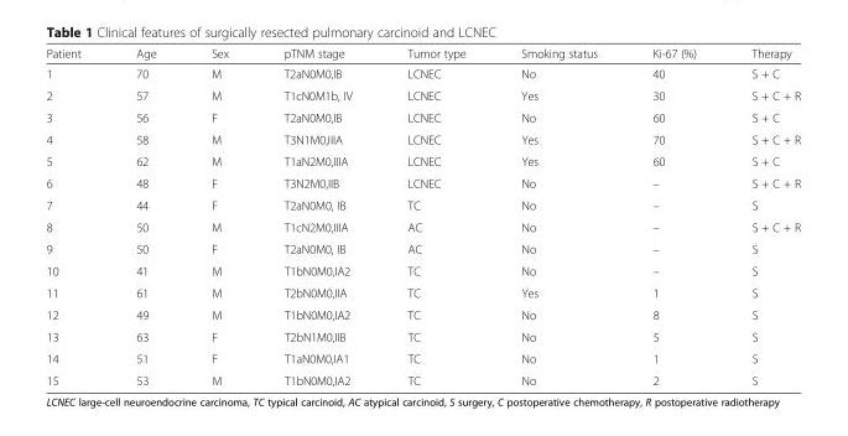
<table><thead><tr><td>Patient</td><td>Age</td><td>Sex</td><td>pTNM stage</td><td>Tumor type</td><td>Smoking status</td><td>Ki-67 (%)</td><td>Therapy</td></tr></thead><tbody><tr><td>1</td><td>70</td><td>M</td><td>T2aN0M0,IB</td><td>LCNEC</td><td>No</td><td>40</td><td>S + C</td></tr><tr><td>2</td><td>57</td><td>M</td><td>T1cN0M1b, IV</td><td>LCNEC</td><td>Yes</td><td>30</td><td>S + C + R</td></tr><tr><td>3</td><td>56</td><td>F</td><td>T2aN0M0,IB</td><td>LCNEC</td><td>No</td><td>60</td><td>S + C</td></tr><tr><td>4</td><td>58</td><td>M</td><td>T3N1M0,IIIA</td><td>LCNEC</td><td>Yes</td><td>70</td><td>S + C + R</td></tr><tr><td>5</td><td>62</td><td>M</td><td>T1aN2M0,IIIA</td><td>LCNEC</td><td>Yes</td><td>60</td><td>S + C</td></tr><tr><td>6</td><td>48</td><td>F</td><td>T3N2M0,IIB</td><td>LCNEC</td><td>No</td><td>–</td><td>S + C + R</td></tr><tr><td>7</td><td>44</td><td>F</td><td>T2aN0M0, IB</td><td>TC</td><td>No</td><td>–</td><td>S</td></tr><tr><td>8</td><td>50</td><td>M</td><td>T1cN2M0,IIIA</td><td>AC</td><td>No</td><td>–</td><td>S + C + R</td></tr><tr><td>9</td><td>50</td><td>F</td><td>T2aN0M0, IB</td><td>AC</td><td>No</td><td>–</td><td>S</td></tr><tr><td>10</td><td>41</td><td>M</td><td>T1bN0M0,IA2</td><td>TC</td><td>No</td><td>–</td><td>S</td></tr><tr><td>11</td><td>61</td><td>M</td><td>T2bN0M0,IIA</td><td>TC</td><td>Yes</td><td>1</td><td>S</td></tr><tr><td>12</td><td>49</td><td>M</td><td>T1bN0M0,IA2</td><td>TC</td><td>No</td><td>8</td><td>S</td></tr><tr><td>13</td><td>63</td><td>F</td><td>T2bN1M0,IIB</td><td>TC</td><td>No</td><td>5</td><td>S</td></tr><tr><td>14</td><td>51</td><td>F</td><td>T1aN0M0,IA1</td><td>TC</td><td>No</td><td>1</td><td>S</td></tr><tr><td>15</td><td>53</td><td>M</td><td>T1bN0M0,IA2</td><td>TC</td><td>No</td><td>2</td><td>S</td></tr></tbody></table>